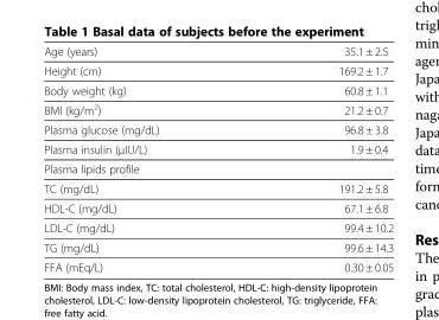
<table><tbody><tr><td>Age (years)</td><td>35.1 ± 2.5</td></tr><tr><td>Height (cm)</td><td>169.2 ± 1.7</td></tr><tr><td>Body weight (kg)</td><td>60.8 ± 1.1</td></tr><tr><td>BMI (kg/m<sup>2</sup>)</td><td>21.2 ± 0.7</td></tr><tr><td>Plasma glucose (mg/dL)</td><td>96.8 ± 3.8</td></tr><tr><td>Plasma insulin (μIU/L)</td><td>1.9 ± 0.4</td></tr><tr><td colspan="2">Plasma lipids profile</td></tr><tr><td>TC (mg/dL)</td><td>191.2 ± 5.8</td></tr><tr><td>HDL-C (mg/dL)</td><td>67.1 ± 6.8</td></tr><tr><td>LDL-C (mg/dL)</td><td>99.4 ± 10.2</td></tr><tr><td>TG (mg/dL)</td><td>99.6 ± 14.3</td></tr><tr><td>FFA (mEq/L)</td><td>0.30 ± 0.05</td></tr></tbody></table>